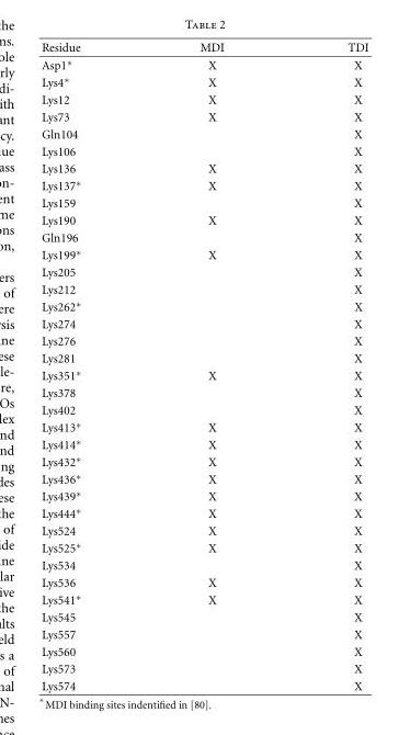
<table><thead><tr><td>Residue</td><td>MDI</td><td>TDI</td></tr></thead><tbody><tr><td>Asp1∗</td><td>X</td><td>X</td></tr><tr><td>Lys4∗</td><td>X</td><td>X</td></tr><tr><td>Lys12</td><td>X</td><td>X</td></tr><tr><td>Lys73</td><td>X</td><td>X</td></tr><tr><td>Gln104</td><td></td><td>X</td></tr><tr><td>Lys106</td><td></td><td>X</td></tr><tr><td>Lys136</td><td>X</td><td>X</td></tr><tr><td>Lys137∗</td><td>X</td><td>X</td></tr><tr><td>Lys159</td><td></td><td>X</td></tr><tr><td>Lys190</td><td>X</td><td>X</td></tr><tr><td>Gln196</td><td></td><td>X</td></tr><tr><td>Lys199∗</td><td>X</td><td>X</td></tr><tr><td>Lys205</td><td></td><td>X</td></tr><tr><td>Lys212</td><td></td><td>X</td></tr><tr><td>Lys262∗</td><td></td><td>X</td></tr><tr><td>Lys274</td><td></td><td>X</td></tr><tr><td>Lys276</td><td></td><td>X</td></tr><tr><td>Lys281</td><td></td><td>X</td></tr><tr><td>Lys351∗</td><td>X</td><td>X</td></tr><tr><td>Lys378</td><td></td><td>X</td></tr><tr><td>Lys402</td><td></td><td>X</td></tr><tr><td>Lys413∗</td><td>X</td><td>X</td></tr><tr><td>Lys414∗</td><td>X</td><td>X</td></tr><tr><td>Lys432∗</td><td>X</td><td>X</td></tr><tr><td>Lys436∗</td><td>X</td><td>X</td></tr><tr><td>Lys439∗</td><td>X</td><td>X</td></tr><tr><td>Lys444∗</td><td>X</td><td>X</td></tr><tr><td>Lys524</td><td>X</td><td>X</td></tr><tr><td>Lys525∗</td><td>X</td><td>X</td></tr><tr><td>Lys534</td><td></td><td>X</td></tr><tr><td>Lys536</td><td>X</td><td>X</td></tr><tr><td>Lys541∗</td><td>X</td><td>X</td></tr><tr><td>Lys545</td><td></td><td>X</td></tr><tr><td>Lys557</td><td></td><td>X</td></tr><tr><td>Lys560</td><td></td><td>X</td></tr><tr><td>Lys573</td><td></td><td>X</td></tr><tr><td>Lys574</td><td></td><td>X</td></tr></tbody></table>